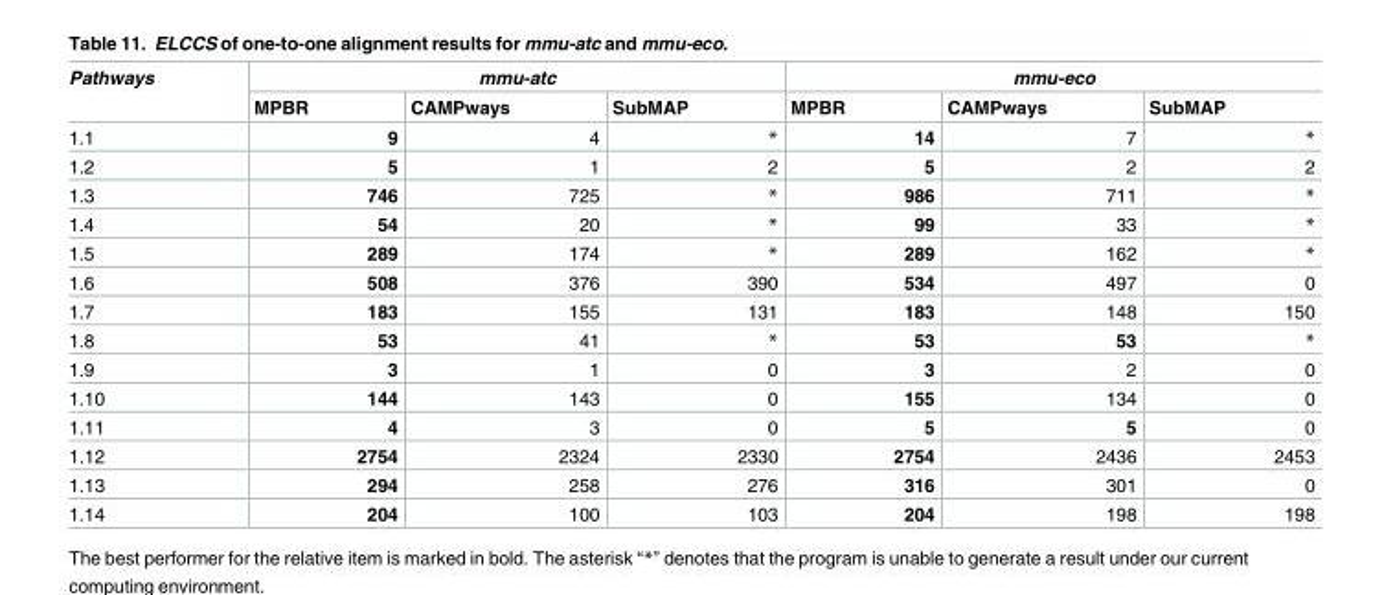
<table><thead><tr><td rowspan="2">Pathways</td><td colspan="3">mmu-atc</td><td colspan="3">mmu-eco</td></tr><tr><td>MPBR</td><td>CAMPways</td><td>SubMAP</td><td>MPBR</td><td>CAMPways</td><td>SubMAP</td></tr></thead><tbody><tr><td>1.1</td><td>9</td><td>4</td><td>*</td><td>14</td><td>7</td><td>*</td></tr><tr><td>1.2</td><td>5</td><td>1</td><td>2</td><td>5</td><td>2</td><td>2</td></tr><tr><td>1.3</td><td>746</td><td>725</td><td>*</td><td>986</td><td>711</td><td>*</td></tr><tr><td>1.4</td><td>54</td><td>20</td><td>*</td><td>99</td><td>33</td><td>*</td></tr><tr><td>1.5</td><td>289</td><td>174</td><td>*</td><td>289</td><td>162</td><td>*</td></tr><tr><td>1.6</td><td>508</td><td>376</td><td>390</td><td>534</td><td>497</td><td>0</td></tr><tr><td>1.7</td><td>183</td><td>155</td><td>131</td><td>183</td><td>148</td><td>150</td></tr><tr><td>1.8</td><td>53</td><td>41</td><td>*</td><td>53</td><td>53</td><td>*</td></tr><tr><td>1.9</td><td>3</td><td>1</td><td>0</td><td>3</td><td>2</td><td>0</td></tr><tr><td>1.10</td><td>144</td><td>143</td><td>0</td><td>155</td><td>134</td><td>0</td></tr><tr><td>1.11</td><td>4</td><td>3</td><td>0</td><td>5</td><td>5</td><td>0</td></tr><tr><td>1.12</td><td>2754</td><td>2324</td><td>2330</td><td>2754</td><td>2436</td><td>2453</td></tr><tr><td>1.13</td><td>294</td><td>258</td><td>276</td><td>316</td><td>301</td><td>0</td></tr><tr><td>1.14</td><td>204</td><td>100</td><td>103</td><td>204</td><td>198</td><td>198</td></tr></tbody></table>